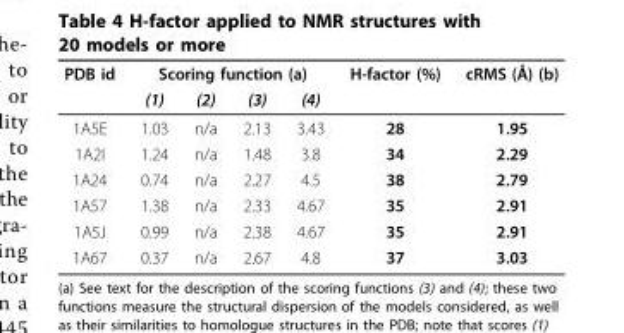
<table><thead><tr><td rowspan="2">PDB id</td><td colspan="4">Scoring function (a)</td><td rowspan="2">H-factor (%)</td><td rowspan="2">cRMS (Å) (b)</td></tr><tr><td>(1)</td><td>(2)</td><td>(3)</td><td>(4)</td></tr></thead><tbody><tr><td>1A5E</td><td>1.03</td><td>n/a</td><td>2.13</td><td>3.43</td><td>28</td><td>1.95</td></tr><tr><td>1A2I</td><td>1.24</td><td>n/a</td><td>1.48</td><td>3.8</td><td>34</td><td>2.29</td></tr><tr><td>1A24</td><td>0.74</td><td>n/a</td><td>2.27</td><td>4.5</td><td>38</td><td>2.79</td></tr><tr><td>1A57</td><td>1.38</td><td>n/a</td><td>2.33</td><td>4.67</td><td>35</td><td>2.91</td></tr><tr><td>1A5J</td><td>0.99</td><td>n/a</td><td>2.38</td><td>4.67</td><td>35</td><td>2.91</td></tr><tr><td>1A67</td><td>0.37</td><td>n/a</td><td>2.67</td><td>4.8</td><td>37</td><td>3.03</td></tr></tbody></table>